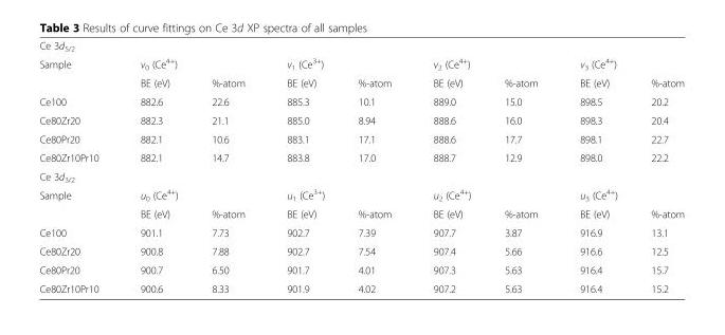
<table><tbody><tr><td colspan="9">Ce 3d<sub>5/2</sub></td></tr><tr><td rowspan="2">Sample</td><td colspan="2">v<sub>0</sub> (Ce<sup>4+</sup>)</td><td colspan="2">v<sub>1</sub> (Ce<sup>3+</sup>)</td><td colspan="2">v<sub>2</sub> (Ce<sup>4+</sup>)</td><td colspan="2">v<sub>3</sub> (Ce<sup>4+</sup>)</td></tr><tr><td>BE (eV)</td><td>%-atom</td><td>BE (eV)</td><td>%-atom</td><td>BE (eV)</td><td>%-atom</td><td>BE (eV)</td><td>%-atom</td></tr><tr><td>Ce100</td><td>882.6</td><td>22.6</td><td>885.3</td><td>10.1</td><td>889.0</td><td>15.0</td><td>898.5</td><td>20.2</td></tr><tr><td>Ce80Zr20</td><td>882.3</td><td>21.1</td><td>885.0</td><td>8.94</td><td>888.6</td><td>16.0</td><td>898.3</td><td>20.4</td></tr><tr><td>Ce80Pr20</td><td>882.1</td><td>10.6</td><td>883.1</td><td>17.1</td><td>888.6</td><td>17.7</td><td>898.1</td><td>22.7</td></tr><tr><td>Ce80Zr10Pr10</td><td>882.1</td><td>14.7</td><td>883.8</td><td>17.0</td><td>888.7</td><td>12.9</td><td>898.0</td><td>22.2</td></tr><tr><td colspan="9">Ce 3d<sub>3/2</sub></td></tr><tr><td rowspan="2">Sample</td><td colspan="2">u<sub>0</sub> (Ce<sup>4+</sup>)</td><td colspan="2">u<sub>1</sub> (Ce<sup>3+</sup>)</td><td colspan="2">u<sub>2</sub> (Ce<sup>4+</sup>)</td><td colspan="2">u<sub>3</sub> (Ce<sup>4+</sup>)</td></tr><tr><td>BE (eV)</td><td>%-atom</td><td>BE (eV)</td><td>%-atom</td><td>BE (eV)</td><td>%-atom</td><td>BE (eV)</td><td>%-atom</td></tr><tr><td>Ce100</td><td>901.1</td><td>7.73</td><td>902.7</td><td>7.39</td><td>907.7</td><td>3.87</td><td>916.9</td><td>13.1</td></tr><tr><td>Ce80Zr20</td><td>900.8</td><td>7.88</td><td>902.7</td><td>7.54</td><td>907.4</td><td>5.66</td><td>916.6</td><td>12.5</td></tr><tr><td>Ce80Pr20</td><td>900.7</td><td>6.50</td><td>901.7</td><td>4.01</td><td>907.3</td><td>5.63</td><td>916.4</td><td>15.7</td></tr><tr><td>Ce80Zr10Pr10</td><td>900.6</td><td>8.33</td><td>901.9</td><td>4.02</td><td>907.2</td><td>5.63</td><td>916.4</td><td>15.2</td></tr></tbody></table>